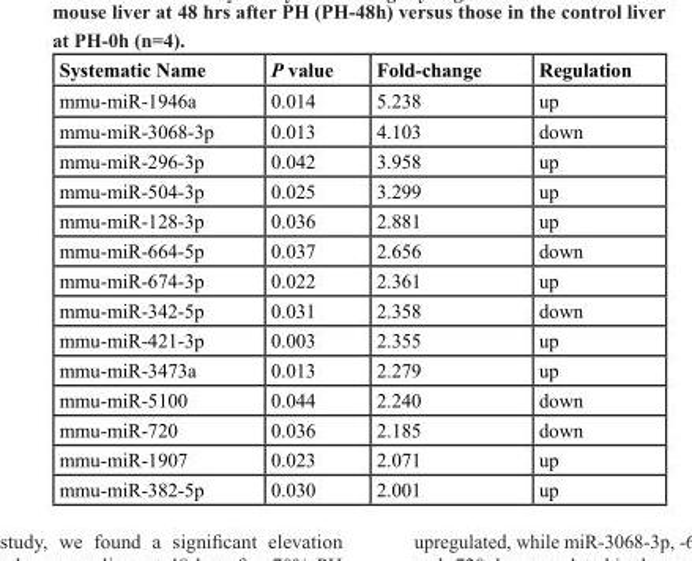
<table><thead><tr><td>Systematic Name</td><td>P value</td><td>Fold-change</td><td>Regulation</td></tr></thead><tbody><tr><td>mmu-miR-1946a</td><td>0.014</td><td>5.238</td><td>up</td></tr><tr><td>mmu-miR-3068-3p</td><td>0.013</td><td>4.103</td><td>down</td></tr><tr><td>mmu-miR-296-3p</td><td>0.042</td><td>3.958</td><td>up</td></tr><tr><td>mmu-miR-504-3p</td><td>0.025</td><td>3.299</td><td>up</td></tr><tr><td>mmu-miR-128-3p</td><td>0.036</td><td>2.881</td><td>up</td></tr><tr><td>mmu-miR-664-5p</td><td>0.037</td><td>2.656</td><td>down</td></tr><tr><td>mmu-miR-674-3p</td><td>0.022</td><td>2.361</td><td>up</td></tr><tr><td>mmu-miR-342-5p</td><td>0.031</td><td>2.358</td><td>down</td></tr><tr><td>mmu-miR-421-3p</td><td>0.003</td><td>2.355</td><td>up</td></tr><tr><td>mmu-miR-3473a</td><td>0.013</td><td>2.279</td><td>up</td></tr><tr><td>mmu-miR-5100</td><td>0.044</td><td>2.240</td><td>down</td></tr><tr><td>mmu-miR-720</td><td>0.036</td><td>2.185</td><td>down</td></tr><tr><td>mmu-miR-1907</td><td>0.023</td><td>2.071</td><td>up</td></tr><tr><td>mmu-miR-382-5p</td><td>0.030</td><td>2.001</td><td>up</td></tr></tbody></table>